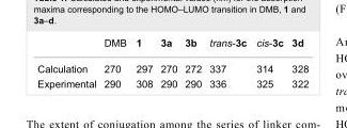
<table><thead><tr><td></td><td>DMB</td><td>1</td><td>3a</td><td>3b</td><td>trans-3c</td><td>cis-3c</td><td>3d</td></tr></thead><tbody><tr><td>Calculation</td><td>270</td><td>297</td><td>270</td><td>272</td><td>337</td><td>314</td><td>328</td></tr><tr><td>Experimental</td><td>290</td><td>308</td><td>290</td><td>290</td><td>336</td><td>325</td><td>322</td></tr></tbody></table>